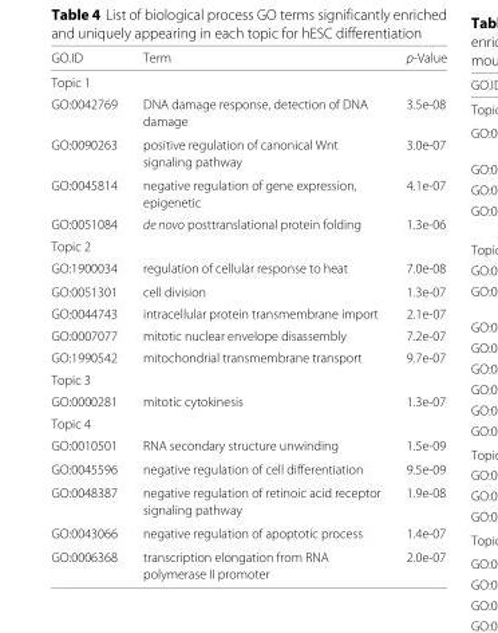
<table><thead><tr><td>GO.ID</td><td>Term</td><td>p-Value</td></tr></thead><tbody><tr><td colspan="3">Topic 1</td></tr><tr><td rowspan="2">GO:0042769</td><td>DNA damage response, detection of DNA</td><td>3.5e-08</td></tr><tr><td>damage</td><td></td></tr><tr><td rowspan="2">GO:0090263</td><td>positive regulation of canonical Wnt</td><td>3.0e-07</td></tr><tr><td>signaling pathway</td><td></td></tr><tr><td rowspan="2">GO:0045814</td><td>negative regulation of gene expression,</td><td>4.1e-07</td></tr><tr><td>epigenetic</td><td></td></tr><tr><td>GO:0051084</td><td>de novo posttranslational protein folding</td><td>1.3e-06</td></tr><tr><td colspan="3">Topic 2</td></tr><tr><td>GO:1900034</td><td>regulation of cellular response to heat</td><td>7.0e-08</td></tr><tr><td>GO:0051301</td><td>cell division</td><td>1.3e-07</td></tr><tr><td>GO:0044743</td><td>intracellular protein transmembrane import</td><td>2.1e-07</td></tr><tr><td>GO:0007077</td><td>mitotic nuclear envelope disassembly</td><td>7.2e-07</td></tr><tr><td>GO:1990542</td><td>mitochondrial transmembrane transport</td><td>9.7e-07</td></tr><tr><td colspan="3">Topic 3</td></tr><tr><td>GO:0000281</td><td>mitotic cytokinesis</td><td>1.3e-07</td></tr><tr><td colspan="3">Topic 4</td></tr><tr><td>GO:0010501</td><td>RNA secondary structure unwinding</td><td>1.5e-09</td></tr><tr><td>GO:0045596</td><td>negative regulation of cell differentiation</td><td>9.5e-09</td></tr><tr><td rowspan="2">GO:0048387</td><td>negative regulation of retinoic acid receptor</td><td>1.9e-08</td></tr><tr><td>signaling pathway</td><td></td></tr><tr><td>GO:0043066</td><td>negative regulation of apoptotic process</td><td>1.4e-07</td></tr><tr><td rowspan="2">GO:0006368</td><td>transcription elongation from RNA</td><td>2.0e-07</td></tr><tr><td>polymerase II promoter</td><td></td></tr></tbody></table>